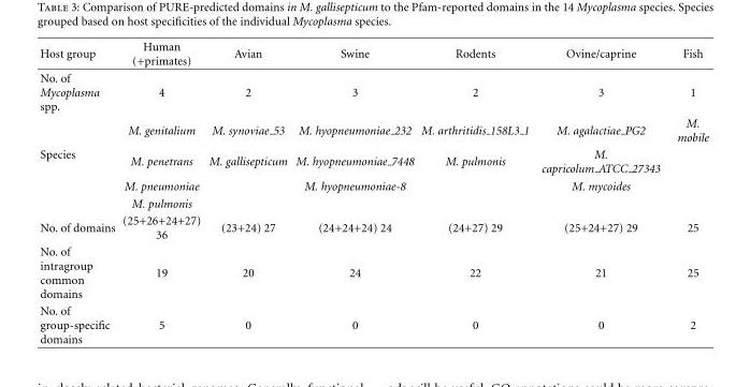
<table><thead><tr><td>Host group</td><td>Human (+primates)</td><td>Avian</td><td>Swine</td><td>Rodents</td><td>Ovine/caprine</td><td>Fish</td></tr></thead><tbody><tr><td>No. of Mycoplasma spp.</td><td>4</td><td>2</td><td>3</td><td>2</td><td>3</td><td>1</td></tr><tr><td rowspan="4">Species</td><td>M. genitalium</td><td>M. synoviae 53</td><td>M. hyopneumoniae 232</td><td>M. arthritidis <sub>158L3</sub> 1</td><td>M. agalactiae PG2</td><td>M. mobile</td></tr><tr><td>M. penetrans</td><td>M. gallisepticum</td><td>M. hyopneumoniae 7448</td><td>M. pulmonis</td><td>M. capricolum <sub>ATCC</sub> 27343</td><td></td></tr><tr><td>M. pneumoniae</td><td></td><td>M. hyopneumoniae-8</td><td></td><td>M. mycoides</td><td></td></tr><tr><td>M. pulmonis</td><td></td><td></td><td></td><td></td><td></td></tr><tr><td>No. of domains</td><td>(25+26+24+27) 36</td><td>(23+24) 27</td><td>(24+24+24) 24</td><td>(24+27) 29</td><td>(25+24+27) 29</td><td>25</td></tr><tr><td>No. of intragroup common domains</td><td>19</td><td>20</td><td>24</td><td>22</td><td>21</td><td>25</td></tr><tr><td>No. of group-specific domains</td><td>5</td><td>0</td><td>0</td><td>0</td><td>0</td><td>2</td></tr></tbody></table>